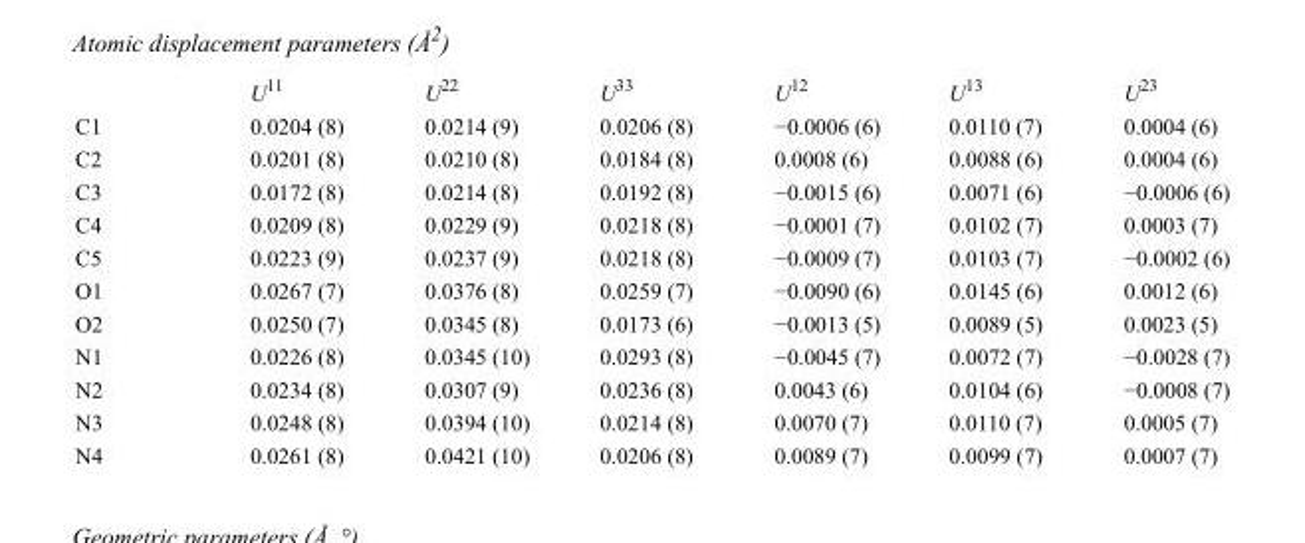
<table><thead><tr><td></td><td>U<sup>11</sup></td><td>U<sup>22</sup></td><td>U<sup>33</sup></td><td>U<sup>12</sup></td><td>U<sup>13</sup></td><td>U<sup>23</sup></td></tr></thead><tbody><tr><td>C1</td><td>0.0204 (8)</td><td>0.0214 (9)</td><td>0.0206 (8)</td><td>−0.0006 (6)</td><td>0.0110 (7)</td><td>0.0004 (6)</td></tr><tr><td>C2</td><td>0.0201 (8)</td><td>0.0210 (8)</td><td>0.0184 (8)</td><td>0.0008 (6)</td><td>0.0088 (6)</td><td>0.0004 (6)</td></tr><tr><td>C3</td><td>0.0172 (8)</td><td>0.0214 (8)</td><td>0.0192 (8)</td><td>−0.0015 (6)</td><td>0.0071 (6)</td><td>−0.0006 (6)</td></tr><tr><td>C4</td><td>0.0209 (8)</td><td>0.0229 (9)</td><td>0.0218 (8)</td><td>−0.0001 (7)</td><td>0.0102 (7)</td><td>0.0003 (7)</td></tr><tr><td>C5</td><td>0.0223 (9)</td><td>0.0237 (9)</td><td>0.0218 (8)</td><td>−0.0009 (7)</td><td>0.0103 (7)</td><td>−0.0002 (6)</td></tr><tr><td>O1</td><td>0.0267 (7)</td><td>0.0376 (8)</td><td>0.0259 (7)</td><td>−0.0090 (6)</td><td>0.0145 (6)</td><td>0.0012 (6)</td></tr><tr><td>O2</td><td>0.0250 (7)</td><td>0.0345 (8)</td><td>0.0173 (6)</td><td>−0.0013 (5)</td><td>0.0089 (5)</td><td>0.0023 (5)</td></tr><tr><td>N1</td><td>0.0226 (8)</td><td>0.0345 (10)</td><td>0.0293 (8)</td><td>−0.0045 (7)</td><td>0.0072 (7)</td><td>−0.0028 (7)</td></tr><tr><td>N2</td><td>0.0234 (8)</td><td>0.0307 (9)</td><td>0.0236 (8)</td><td>0.0043 (6)</td><td>0.0104 (6)</td><td>−0.0008 (7)</td></tr><tr><td>N3</td><td>0.0248 (8)</td><td>0.0394 (10)</td><td>0.0214 (8)</td><td>0.0070 (7)</td><td>0.0110 (7)</td><td>0.0005 (7)</td></tr><tr><td>N4</td><td>0.0261 (8)</td><td>0.0421 (10)</td><td>0.0206 (8)</td><td>0.0089 (7)</td><td>0.0099 (7)</td><td>0.0007 (7)</td></tr></tbody></table>